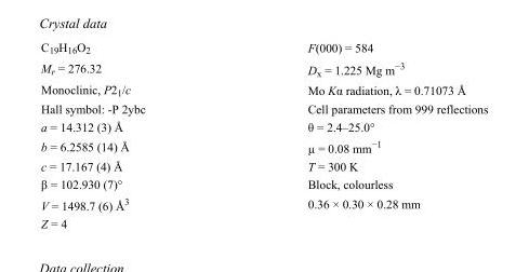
<table><tbody><tr><td>C<sub>19</sub>H<sub>16</sub>O<sub>2</sub></td><td>F(000) = 584</td></tr><tr><td>M<sub>r</sub> = 276.32</td><td>D<sub>x</sub> = 1.225 Mg m<sup>−3</sup></td></tr><tr><td>Monoclinic, P2<sub>1</sub>/c</td><td>Mo Kα radiation, λ = 0.71073 Å</td></tr><tr><td>Hall symbol: -P 2ybc</td><td>Cell parameters from 999 reflections</td></tr><tr><td>a = 14.312 (3) Å</td><td>θ = 2.4–25.0°</td></tr><tr><td>b = 6.2585 (14) Å</td><td>µ = 0.08 mm<sup>−1</sup></td></tr><tr><td>c = 17.167 (4) Å</td><td>T = 300 K</td></tr><tr><td>β = 102.930 (7)°</td><td>Block, colourless</td></tr><tr><td>V = 1498.7 (6) Å<sup>3</sup></td><td>0.36 × 0.30 × 0.28 mm</td></tr><tr><td>Z = 4</td><td></td></tr></tbody></table>